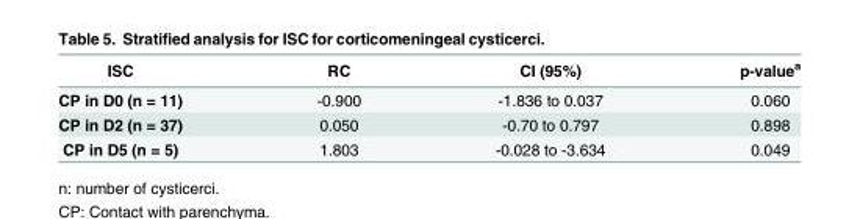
<table><thead><tr><td>ISC</td><td>RC</td><td>CI (95%)</td><td>p-value<sup>a</sup></td></tr></thead><tbody><tr><td>CP in D0 (n = 11)</td><td>-0.900</td><td>-1.836 to 0.037</td><td>0.060</td></tr><tr><td>CP in D2 (n = 37)</td><td>0.050</td><td>-0.70 to 0.797</td><td>0.898</td></tr><tr><td>CP in D5 (n = 5)</td><td>1.803</td><td>-0.028 to -3.634</td><td>0.049</td></tr></tbody></table>